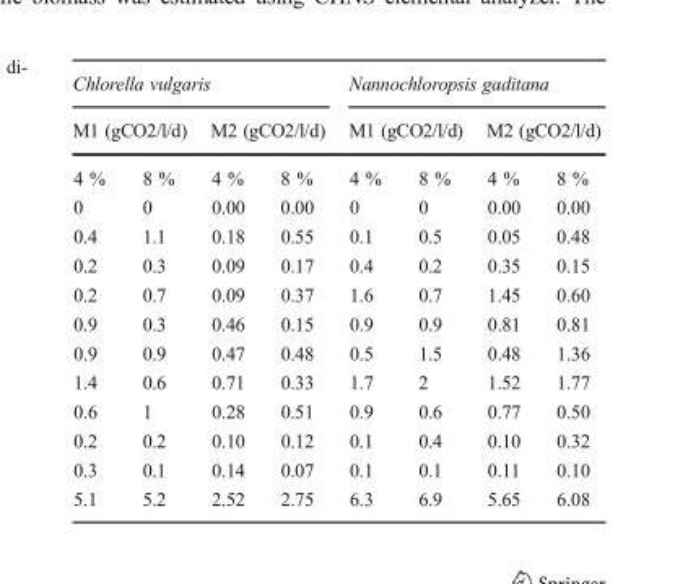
<table><thead><tr><td colspan="4">Chlorella vulgaris</td><td colspan="4">Nannochloropsis gaditana</td></tr><tr><td colspan="2">M1 (gCO2/l/d)</td><td colspan="2">M2 (gCO2/l/d)</td><td colspan="2">M1 (gCO2/l/d)</td><td colspan="2">M2 (gCO2/l/d)</td></tr><tr><td>4 %</td><td>8 %</td><td>4 %</td><td>8 %</td><td>4 %</td><td>8 %</td><td>4 %</td><td>8 %</td></tr></thead><tbody><tr><td>0</td><td>0</td><td>0.00</td><td>0.00</td><td>0</td><td>0</td><td>0.00</td><td>0.00</td></tr><tr><td>0.4</td><td>1.1</td><td>0.18</td><td>0.55</td><td>0.1</td><td>0.5</td><td>0.05</td><td>0.48</td></tr><tr><td>0.2</td><td>0.3</td><td>0.09</td><td>0.17</td><td>0.4</td><td>0.2</td><td>0.35</td><td>0.15</td></tr><tr><td>0.2</td><td>0.7</td><td>0.09</td><td>0.37</td><td>1.6</td><td>0.7</td><td>1.45</td><td>0.60</td></tr><tr><td>0.9</td><td>0.3</td><td>0.46</td><td>0.15</td><td>0.9</td><td>0.9</td><td>0.81</td><td>0.81</td></tr><tr><td>0.9</td><td>0.9</td><td>0.47</td><td>0.48</td><td>0.5</td><td>1.5</td><td>0.48</td><td>1.36</td></tr><tr><td>1.4</td><td>0.6</td><td>0.71</td><td>0.33</td><td>1.7</td><td>2</td><td>1.52</td><td>1.77</td></tr><tr><td>0.6</td><td>1</td><td>0.28</td><td>0.51</td><td>0.9</td><td>0.6</td><td>0.77</td><td>0.50</td></tr><tr><td>0.2</td><td>0.2</td><td>0.10</td><td>0.12</td><td>0.1</td><td>0.4</td><td>0.10</td><td>0.32</td></tr><tr><td>0.3</td><td>0.1</td><td>0.14</td><td>0.07</td><td>0.1</td><td>0.1</td><td>0.11</td><td>0.10</td></tr><tr><td>5.1</td><td>5.2</td><td>2.52</td><td>2.75</td><td>6.3</td><td>6.9</td><td>5.65</td><td>6.08</td></tr></tbody></table>